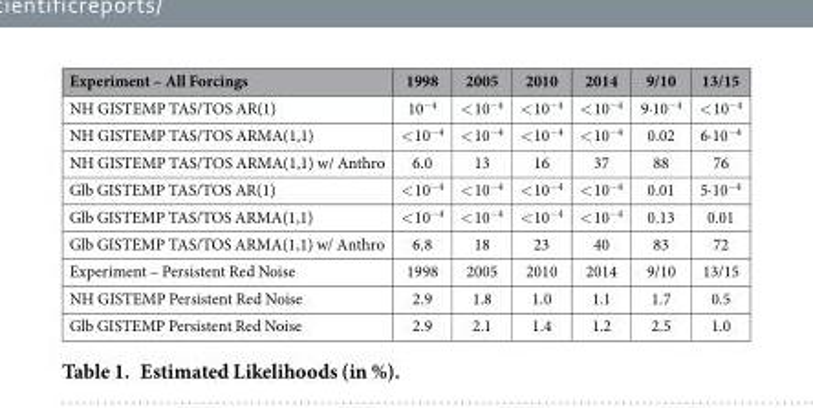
<table><thead><tr><td>Experiment – All Forcings</td><td>1998</td><td>2005</td><td>2010</td><td>2014</td><td>9/10</td><td>13/15</td></tr></thead><tbody><tr><td>NH GISTEMP TAS/TOS AR(1)</td><td>10<sup>−4</sup></td><td>&lt; 10<sup>−4</sup></td><td>&lt; 10<sup>−4</sup></td><td>&lt; 10<sup>−4</sup></td><td>9·10<sup>−4</sup></td><td>&lt; 10<sup>−4</sup></td></tr><tr><td>NH GISTEMP TAS/TOS ARMA(1,1)</td><td>&lt; 10<sup>−4</sup></td><td>&lt; 10<sup>−4</sup></td><td>&lt; 10<sup>−4</sup></td><td>&lt; 10<sup>−4</sup></td><td>0.02</td><td>6·10<sup>−4</sup></td></tr><tr><td>NH GISTEMP TAS/TOS ARMA(1,1) w/ Anthro</td><td>6.0</td><td>13</td><td>16</td><td>37</td><td>88</td><td>76</td></tr><tr><td>Glb GISTEMP TAS/TOS AR(1)</td><td>&lt; 10<sup>−4</sup></td><td>&lt; 10<sup>−4</sup></td><td>&lt; 10<sup>−4</sup></td><td>&lt; 10<sup>−4</sup></td><td>0.01</td><td>5·10<sup>−4</sup></td></tr><tr><td>Glb GISTEMP TAS/TOS ARMA(1,1)</td><td>&lt; 10<sup>−4</sup></td><td>&lt; 10<sup>−4</sup></td><td>&lt; 10<sup>−4</sup></td><td>&lt; 10<sup>−4</sup></td><td>0.13</td><td>0.01</td></tr><tr><td>Glb GISTEMP TAS/TOS ARMA(1,1) w/ Anthro</td><td>6.8</td><td>18</td><td>23</td><td>40</td><td>83</td><td>72</td></tr><tr><td>Experiment – Persistent Red Noise</td><td>1998</td><td>2005</td><td>2010</td><td>2014</td><td>9/10</td><td>13/15</td></tr><tr><td>NH GISTEMP Persistent Red Noise</td><td>2.9</td><td>1.8</td><td>1.0</td><td>1.1</td><td>1.7</td><td>0.5</td></tr><tr><td>Glb GISTEMP Persistent Red Noise</td><td>2.9</td><td>2.1</td><td>1.4</td><td>1.2</td><td>2.5</td><td>1.0</td></tr></tbody></table>